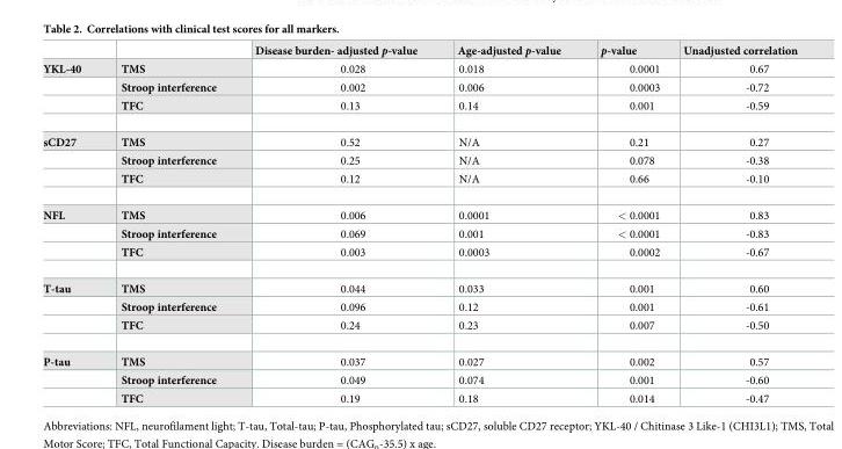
<table><thead><tr><td></td><td></td><td>Disease burden- adjusted p-value</td><td>Age-adjusted p-value</td><td>p-value</td><td>Unadjusted correlation</td></tr></thead><tbody><tr><td rowspan="3">YKL-40</td><td>TMS</td><td>0.028</td><td>0.018</td><td>0.0001</td><td>0.67</td></tr><tr><td>Stroop interference</td><td>0.002</td><td>0.006</td><td>0.0003</td><td>-0.72</td></tr><tr><td>TFC</td><td>0.13</td><td>0.14</td><td>0.001</td><td>-0.59</td></tr><tr><td rowspan="3">sCD27</td><td>TMS</td><td>0.52</td><td>N/A</td><td>0.21</td><td>0.27</td></tr><tr><td>Stroop interference</td><td>0.25</td><td>N/A</td><td>0.078</td><td>-0.38</td></tr><tr><td>TFC</td><td>0.12</td><td>N/A</td><td>0.66</td><td>-0.10</td></tr><tr><td rowspan="3">NFL</td><td>TMS</td><td>0.006</td><td>0.0001</td><td>&lt; 0.0001</td><td>0.83</td></tr><tr><td>Stroop interference</td><td>0.069</td><td>0.001</td><td>&lt; 0.0001</td><td>-0.83</td></tr><tr><td>TFC</td><td>0.003</td><td>0.0003</td><td>0.0002</td><td>-0.67</td></tr><tr><td rowspan="3">T-tau</td><td>TMS</td><td>0.044</td><td>0.033</td><td>0.001</td><td>0.60</td></tr><tr><td>Stroop interference</td><td>0.096</td><td>0.12</td><td>0.001</td><td>-0.61</td></tr><tr><td>TFC</td><td>0.24</td><td>0.23</td><td>0.007</td><td>-0.50</td></tr><tr><td rowspan="3">P-tau</td><td>TMS</td><td>0.037</td><td>0.027</td><td>0.002</td><td>0.57</td></tr><tr><td>Stroop interference</td><td>0.049</td><td>0.074</td><td>0.001</td><td>-0.60</td></tr><tr><td>TFC</td><td>0.19</td><td>0.18</td><td>0.014</td><td>-0.47</td></tr></tbody></table>